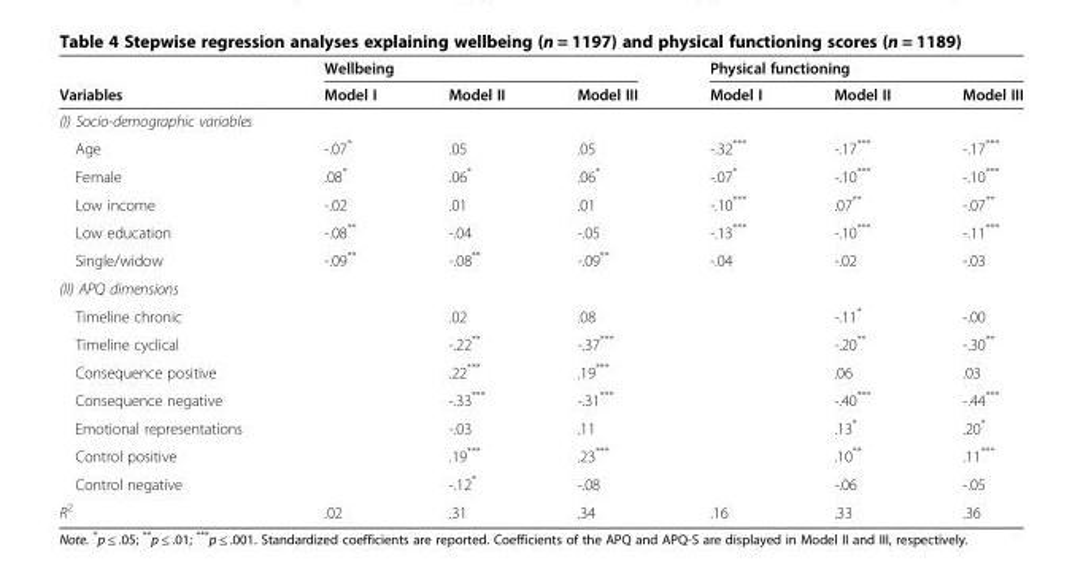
<table><thead><tr><td rowspan="2">Variables</td><td colspan="3">Wellbeing</td><td colspan="3">Physical functioning</td></tr><tr><td>Model I</td><td>Model II</td><td>Model III</td><td>Model I</td><td>Model II</td><td>Model III</td></tr></thead><tbody><tr><td colspan="7">(I) Socio-demographic variables</td></tr><tr><td>Age</td><td>-.07*</td><td>.05</td><td>.05</td><td>-.32***</td><td>-.17***</td><td>-.17***</td></tr><tr><td>Female</td><td>.08*</td><td>.06*</td><td>.06*</td><td>-.07*</td><td>-.10***</td><td>-.10***</td></tr><tr><td>Low income</td><td>-.02</td><td>.01</td><td>.01</td><td>-.10***</td><td>.07**</td><td>-.07**</td></tr><tr><td>Low education</td><td>-.08**</td><td>-.04</td><td>-.05</td><td>-.13***</td><td>-.10***</td><td>-.11***</td></tr><tr><td>Single/widow</td><td>-.09**</td><td>-.08**</td><td>-.09**</td><td>-.04</td><td>-.02</td><td>-.03</td></tr><tr><td colspan="7">(II) APQ dimensions</td></tr><tr><td>Timeline chronic</td><td></td><td>.02</td><td>.08</td><td></td><td>-.11*</td><td>-.00</td></tr><tr><td>Timeline cyclical</td><td></td><td>-.22**</td><td>-.37***</td><td></td><td>-.20**</td><td>-.30**</td></tr><tr><td>Consequence positive</td><td></td><td>.22***</td><td>.19***</td><td></td><td>.06</td><td>.03</td></tr><tr><td>Consequence negative</td><td></td><td>-.33***</td><td>-.31***</td><td></td><td>-.40***</td><td>-.44***</td></tr><tr><td>Emotional representations</td><td></td><td>-.03</td><td>.11</td><td></td><td>.13*</td><td>.20*</td></tr><tr><td>Control positive</td><td></td><td>.19***</td><td>.23***</td><td></td><td>.10**</td><td>.11***</td></tr><tr><td>Control negative</td><td></td><td>-.12*</td><td>-.08</td><td></td><td>-.06</td><td>-.05</td></tr><tr><td>R<sup>2</sup></td><td>.02</td><td>.31</td><td>.34</td><td>.16</td><td>.33</td><td>.36</td></tr></tbody></table>